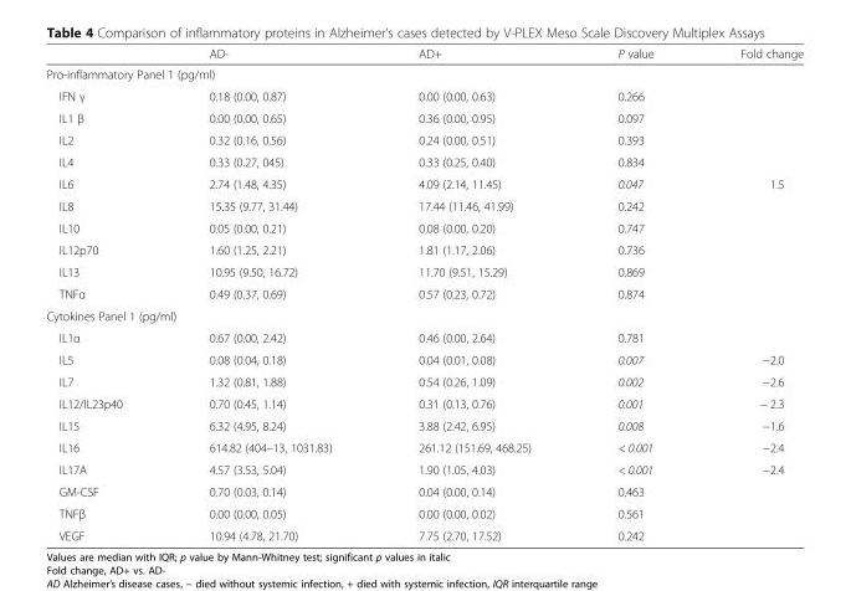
<table><thead><tr><td></td><td>AD-</td><td>AD+</td><td>P value</td><td>Fold change</td></tr></thead><tbody><tr><td colspan="5">Pro-inflammatory Panel 1 (pg/ml)</td></tr><tr><td>IFN γ</td><td>0.18 (0.00, 0.87)</td><td>0.00 (0.00, 0.63)</td><td>0.266</td><td></td></tr><tr><td>IL1 β</td><td>0.00 (0.00, 0.65)</td><td>0.36 (0.00, 0.95)</td><td>0.097</td><td></td></tr><tr><td>IL2</td><td>0.32 (0.16, 0.56)</td><td>0.24 (0.00, 0.51)</td><td>0.393</td><td></td></tr><tr><td>IL4</td><td>0.33 (0.27, 045)</td><td>0.33 (0.25, 0.40)</td><td>0.834</td><td></td></tr><tr><td>IL6</td><td>2.74 (1.48, 4.35)</td><td>4.09 (2.14, 11.45)</td><td>0.047</td><td>1.5</td></tr><tr><td>IL8</td><td>15.35 (9.77, 31.44)</td><td>17.44 (11.46, 41.99)</td><td>0.242</td><td></td></tr><tr><td>IL10</td><td>0.05 (0.00, 0.21)</td><td>0.08 (0.00, 0.20)</td><td>0.747</td><td></td></tr><tr><td>IL12p70</td><td>1.60 (1.25, 2.21)</td><td>1.81 (1.17, 2.06)</td><td>0.736</td><td></td></tr><tr><td>IL13</td><td>10.95 (9.50, 16.72)</td><td>11.70 (9.51, 15.29)</td><td>0.869</td><td></td></tr><tr><td>TNFα</td><td>0.49 (0.37, 0.69)</td><td>0.57 (0.23, 0.72)</td><td>0.874</td><td></td></tr><tr><td colspan="5">Cytokines Panel 1 (pg/ml)</td></tr><tr><td>IL1α</td><td>0.67 (0.00, 2.42)</td><td>0.46 (0.00, 2.64)</td><td>0.781</td><td></td></tr><tr><td>IL5</td><td>0.08 (0.04, 0.18)</td><td>0.04 (0.01, 0.08)</td><td>0.007</td><td>−2.0</td></tr><tr><td>IL7</td><td>1.32 (0.81, 1.88)</td><td>0.54 (0.26, 1.09)</td><td>0.002</td><td>−2.6</td></tr><tr><td>IL12/IL23p40</td><td>0.70 (0.45, 1.14)</td><td>0.31 (0.13, 0.76)</td><td>0.001</td><td>− 2.3</td></tr><tr><td>IL15</td><td>6.32 (4.95, 8.24)</td><td>3.88 (2.42, 6.95)</td><td>0.008</td><td>−1.6</td></tr><tr><td>IL16</td><td>614.82 (404–13, 1031.83)</td><td>261.12 (151.69, 468.25)</td><td>&lt; 0.001</td><td>−2.4</td></tr><tr><td>IL17A</td><td>4.57 (3.53, 5.04)</td><td>1.90 (1.05, 4.03)</td><td>&lt; 0.001</td><td>−2.4</td></tr><tr><td>GM-CSF</td><td>0.70 (0.03, 0.14)</td><td>0.04 (0.00, 0.14)</td><td>0.463</td><td></td></tr><tr><td>TNFβ</td><td>0.00 (0.00, 0.05)</td><td>0.00 (0.00, 0.02)</td><td>0.561</td><td></td></tr><tr><td>VEGF</td><td>10.94 (4.78, 21.70)</td><td>7.75 (2.70, 17.52)</td><td>0.242</td><td></td></tr></tbody></table>